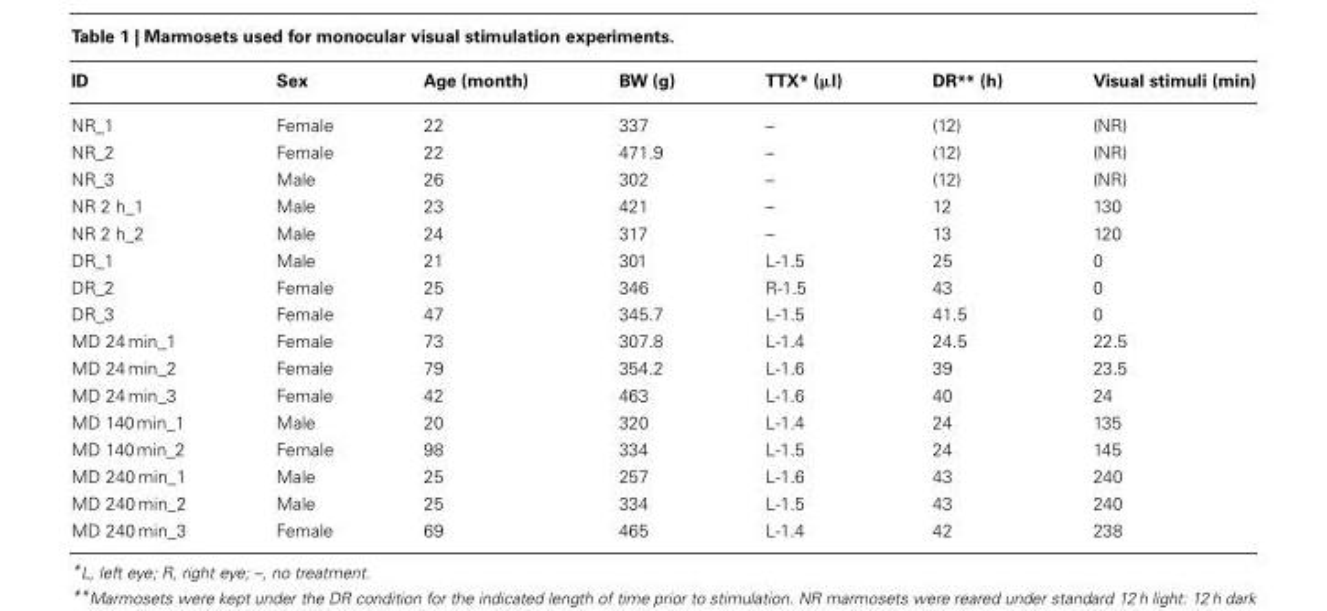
<table><thead><tr><td>ID</td><td>Sex</td><td>Age (month)</td><td>BW (g)</td><td>TTX* (µl)</td><td>DR** (h)</td><td>Visual stimuli (min)</td></tr></thead><tbody><tr><td>NR_1</td><td>Female</td><td>22</td><td>337</td><td>–</td><td>(12)</td><td>(NR)</td></tr><tr><td>NR_2</td><td>Female</td><td>22</td><td>471.9</td><td>–</td><td>(12)</td><td>(NR)</td></tr><tr><td>NR_3</td><td>Male</td><td>26</td><td>302</td><td>–</td><td>(12)</td><td>(NR)</td></tr><tr><td>NR 2 h_1</td><td>Male</td><td>23</td><td>421</td><td>–</td><td>12</td><td>130</td></tr><tr><td>NR 2 h_2</td><td>Male</td><td>24</td><td>317</td><td>–</td><td>13</td><td>120</td></tr><tr><td>DR_1</td><td>Male</td><td>21</td><td>301</td><td>L-1.5</td><td>25</td><td>0</td></tr><tr><td>DR_2</td><td>Female</td><td>25</td><td>346</td><td>R-1.5</td><td>43</td><td>0</td></tr><tr><td>DR_3</td><td>Female</td><td>47</td><td>345.7</td><td>L-1.5</td><td>41.5</td><td>0</td></tr><tr><td>MD 24 min_1</td><td>Female</td><td>73</td><td>307.8</td><td>L-1.4</td><td>24.5</td><td>22.5</td></tr><tr><td>MD 24 min_2</td><td>Female</td><td>79</td><td>354.2</td><td>L-1.6</td><td>39</td><td>23.5</td></tr><tr><td>MD 24 min_3</td><td>Female</td><td>42</td><td>463</td><td>L-1.6</td><td>40</td><td>24</td></tr><tr><td>MD 140min_1</td><td>Male</td><td>20</td><td>320</td><td>L-1.4</td><td>24</td><td>135</td></tr><tr><td>MD 140min_2</td><td>Female</td><td>98</td><td>334</td><td>L-1.5</td><td>24</td><td>145</td></tr><tr><td>MD 240 min_1</td><td>Male</td><td>25</td><td>257</td><td>L-1.6</td><td>43</td><td>240</td></tr><tr><td>MD 240 min_2</td><td>Male</td><td>25</td><td>334</td><td>L-1.5</td><td>43</td><td>240</td></tr><tr><td>MD 240 min_3</td><td>Female</td><td>69</td><td>465</td><td>L-1.4</td><td>42</td><td>238</td></tr></tbody></table>